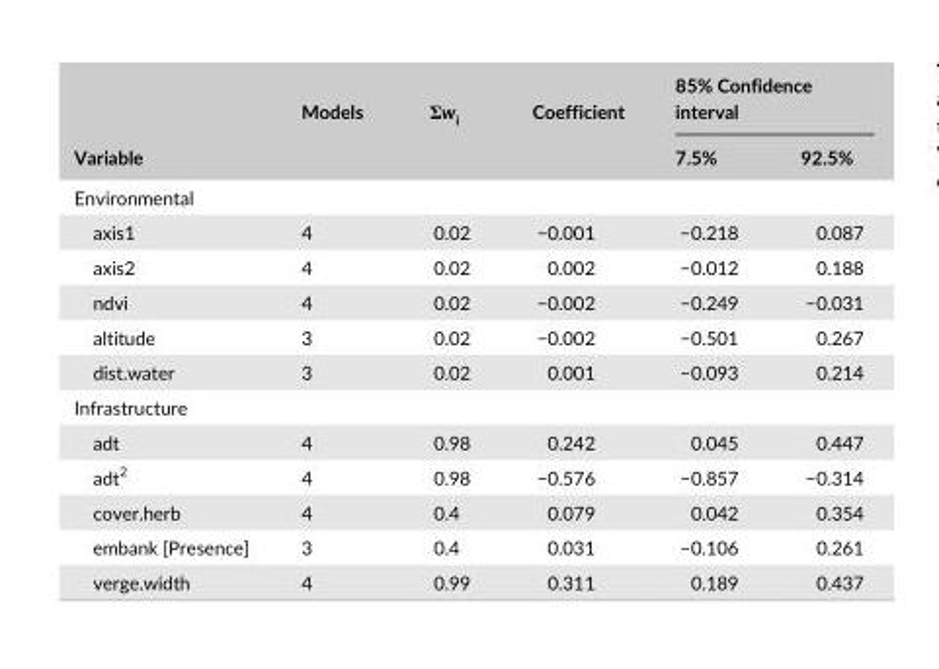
<table><thead><tr><td rowspan="2">Variable</td><td rowspan="2">Models</td><td rowspan="2">Σw<sub>i</sub></td><td rowspan="2">Coefficient</td><td colspan="2">85% Confidence interval</td></tr><tr><td>7.5%</td><td>92.5%</td></tr></thead><tbody><tr><td colspan="6">Environmental</td></tr><tr><td>axis1</td><td>4</td><td>0.02</td><td>−0.001</td><td>−0.218</td><td>0.087</td></tr><tr><td>axis2</td><td>4</td><td>0.02</td><td>0.002</td><td>−0.012</td><td>0.188</td></tr><tr><td>ndvi</td><td>4</td><td>0.02</td><td>−0.002</td><td>−0.249</td><td>−0.031</td></tr><tr><td>altitude</td><td>3</td><td>0.02</td><td>−0.002</td><td>−0.501</td><td>0.267</td></tr><tr><td>dist.water</td><td>3</td><td>0.02</td><td>0.001</td><td>−0.093</td><td>0.214</td></tr><tr><td colspan="6">Infrastructure</td></tr><tr><td>adt</td><td>4</td><td>0.98</td><td>0.242</td><td>0.045</td><td>0.447</td></tr><tr><td>adt<sup>2</sup></td><td>4</td><td>0.98</td><td>−0.576</td><td>−0.857</td><td>−0.314</td></tr><tr><td>cover.herb</td><td>4</td><td>0.4</td><td>0.079</td><td>0.042</td><td>0.354</td></tr><tr><td>embank [Presence]</td><td>3</td><td>0.4</td><td>0.031</td><td>−0.106</td><td>0.261</td></tr><tr><td>verge.width</td><td>4</td><td>0.99</td><td>0.311</td><td>0.189</td><td>0.437</td></tr></tbody></table>